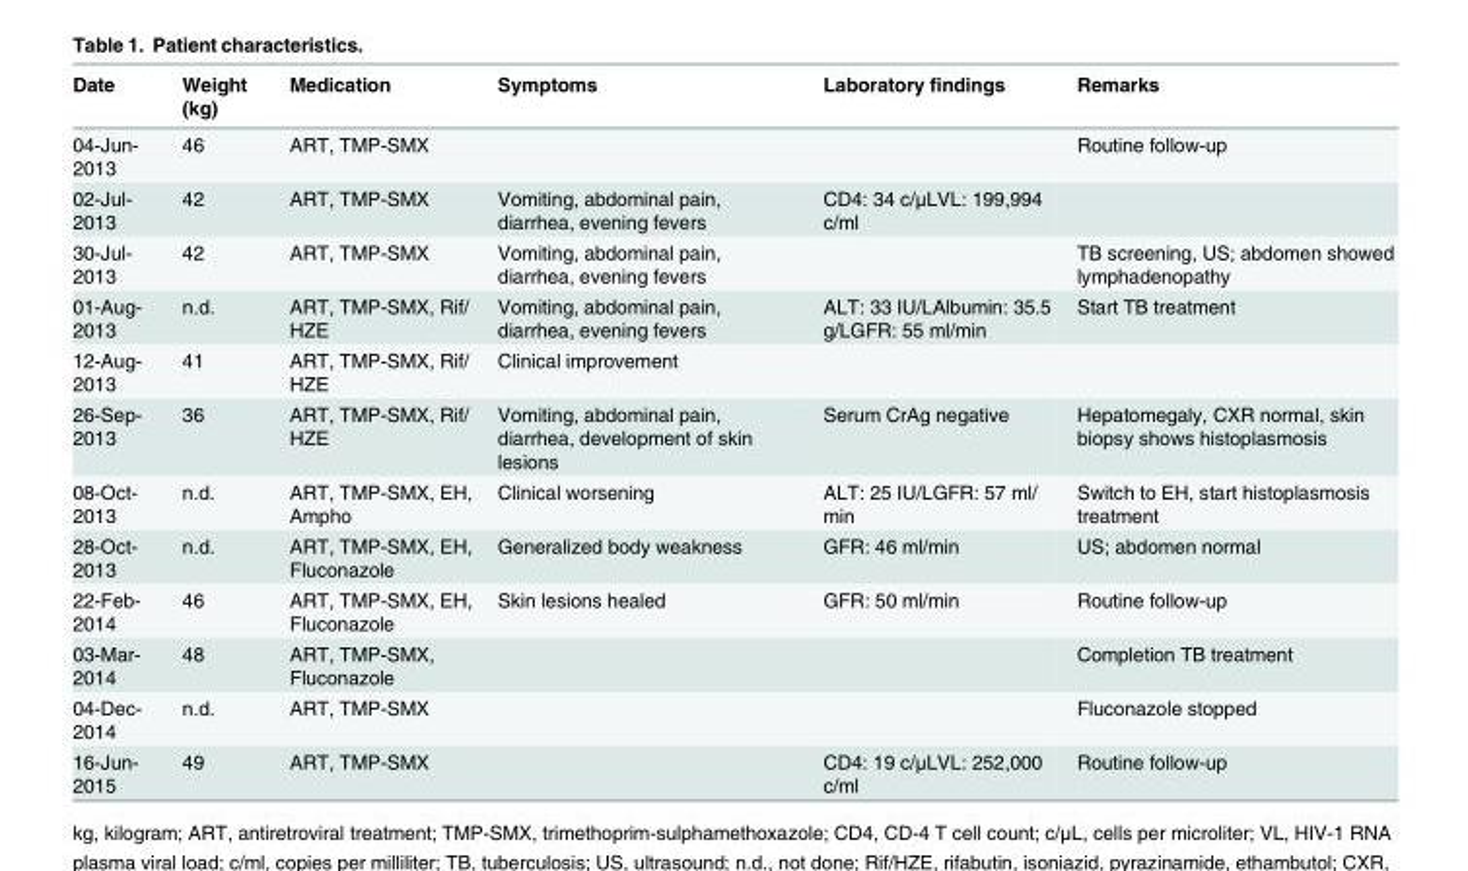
<table><thead><tr><td>Date</td><td>Weight (kg)</td><td>Medication</td><td>Symptoms</td><td>Laboratory findings</td><td>Remarks</td></tr></thead><tbody><tr><td>04-Jun- 2013</td><td>46</td><td>ART, TMP-SMX</td><td></td><td></td><td>Routine follow-up</td></tr><tr><td>02-Jul- 2013</td><td>42</td><td>ART, TMP-SMX</td><td>Vomiting, abdominal pain, diarrhea, evening fevers</td><td>CD4: 34 c/μLVL: 199,994 c/ml</td><td></td></tr><tr><td>30-Jul- 2013</td><td>42</td><td>ART, TMP-SMX</td><td>Vomiting, abdominal pain, diarrhea, evening fevers</td><td></td><td>TB screening, US; abdomen showed lymphadenopathy</td></tr><tr><td>01-Aug- 2013</td><td>n.d.</td><td>ART, TMP-SMX, Rif/ HZE</td><td>Vomiting, abdominal pain, diarrhea, evening fevers</td><td>ALT: 33 IU/LAlbumin: 35.5 g/LGFR: 55 ml/min</td><td>Start TB treatment</td></tr><tr><td>12-Aug- 2013</td><td>41</td><td>ART, TMP-SMX, Rif/ HZE</td><td>Clinical improvement</td><td></td><td></td></tr><tr><td>26-Sep- 2013</td><td>36</td><td>ART, TMP-SMX, Rif/ HZE</td><td>Vomiting, abdominal pain, diarrhea, development of skin lesions</td><td>Serum CrAg negative</td><td>Hepatomegaly, CXR normal, skin biopsy shows histoplasmosis</td></tr><tr><td>08-Oct- 2013</td><td>n.d.</td><td>ART, TMP-SMX, EH, Ampho</td><td>Clinical worsening</td><td>ALT: 25 IU/LGFR: 57 ml/ min</td><td>Switch to EH, start histoplasmosis treatment</td></tr><tr><td>28-Oct- 2013</td><td>n.d.</td><td>ART, TMP-SMX, EH, Fluconazole</td><td>Generalized body weakness</td><td>GFR: 46 ml/min</td><td>US; abdomen normal</td></tr><tr><td>22-Feb- 2014</td><td>46</td><td>ART, TMP-SMX, EH, Fluconazole</td><td>Skin lesions healed</td><td>GFR: 50 ml/min</td><td>Routine follow-up</td></tr><tr><td>03-Mar- 2014</td><td>48</td><td>ART, TMP-SMX, Fluconazole</td><td></td><td></td><td>Completion TB treatment</td></tr><tr><td>04-Dec- 2014</td><td>n.d.</td><td>ART, TMP-SMX</td><td></td><td></td><td>Fluconazole stopped</td></tr><tr><td>16-Jun- 2015</td><td>49</td><td>ART, TMP-SMX</td><td></td><td>CD4: 19 c/μLVL: 252,000 c/ml</td><td>Routine follow-up</td></tr></tbody></table>